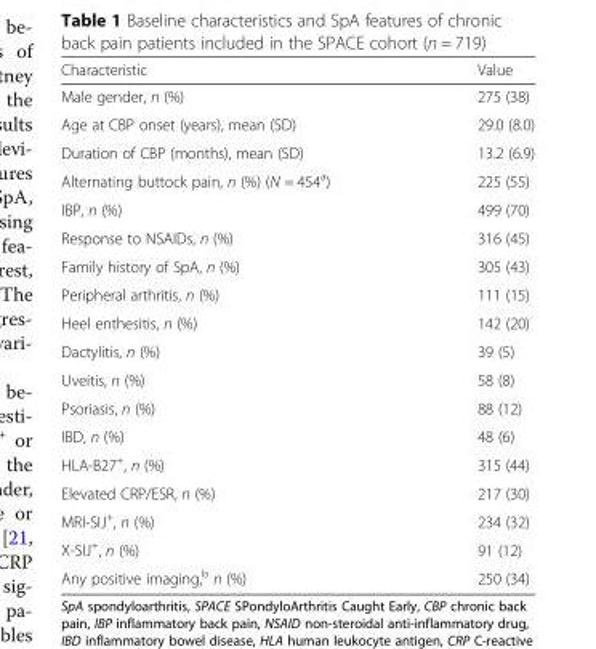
<table><thead><tr><td>Characteristic</td><td>Value</td></tr></thead><tbody><tr><td>Male gender, n (%)</td><td>275 (38)</td></tr><tr><td>Age at CBP onset (years), mean (SD)</td><td>29.0 (8.0)</td></tr><tr><td>Duration of CBP (months), mean (SD)</td><td>13.2 (6.9)</td></tr><tr><td>Alternating buttock pain, n (%) (N = 454<sup>a</sup>)</td><td>225 (55)</td></tr><tr><td>IBP, n (%)</td><td>499 (70)</td></tr><tr><td>Response to NSAIDs, n (%)</td><td>316 (45)</td></tr><tr><td>Family history of SpA, n (%)</td><td>305 (43)</td></tr><tr><td>Peripheral arthritis, n (%)</td><td>111 (15)</td></tr><tr><td>Heel enthesitis, n (%)</td><td>142 (20)</td></tr><tr><td>Dactylitis, n (%)</td><td>39 (5)</td></tr><tr><td>Uveitis, n (%)</td><td>58 (8)</td></tr><tr><td>Psoriasis, n (%)</td><td>88 (12)</td></tr><tr><td>IBD, n (%)</td><td>48 (6)</td></tr><tr><td>HLA-B27<sup>+</sup>, n (%)</td><td>315 (44)</td></tr><tr><td>Elevated CRP/ESR, n (%)</td><td>217 (30)</td></tr><tr><td>MRI-SIJ<sup>+</sup>, n (%)</td><td>234 (32)</td></tr><tr><td>X-SIJ<sup>+</sup>, n (%)</td><td>91 (12)</td></tr><tr><td>Any positive imaging,<sup>b</sup> n (%)</td><td>250 (34)</td></tr></tbody></table>